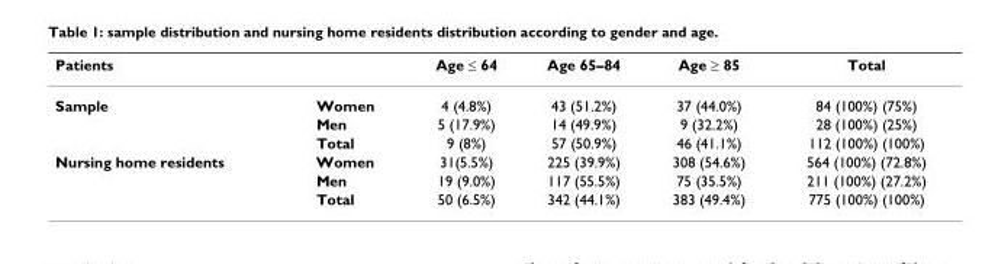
<table><thead><tr><td>Patients</td><td></td><td>Age ≤ 64</td><td>Age 65–84</td><td>Age ≥ 85</td><td>Total</td></tr></thead><tbody><tr><td rowspan="3">Sample</td><td>Women</td><td>4 (4.8%)</td><td>43 (51.2%)</td><td>37 (44.0%)</td><td>84 (100%) (75%)</td></tr><tr><td>Men</td><td>5 (17.9%)</td><td>14 (49.9%)</td><td>9 (32.2%)</td><td>28 (100%) (25%)</td></tr><tr><td>Total</td><td>9 (8%)</td><td>57 (50.9%)</td><td>46 (41.1%)</td><td>112 (100%) (100%)</td></tr><tr><td rowspan="3">Nursing home residents</td><td>Women</td><td>31(5.5%)</td><td>225 (39.9%)</td><td>308 (54.6%)</td><td>564 (100%) (72.8%)</td></tr><tr><td>Men</td><td>19 (9.0%)</td><td>117 (55.5%)</td><td>75 (35.5%)</td><td>211 (100%) (27.2%)</td></tr><tr><td>Total</td><td>50 (6.5%)</td><td>342 (44.1%)</td><td>383 (49.4%)</td><td>775 (100%) (100%)</td></tr></tbody></table>